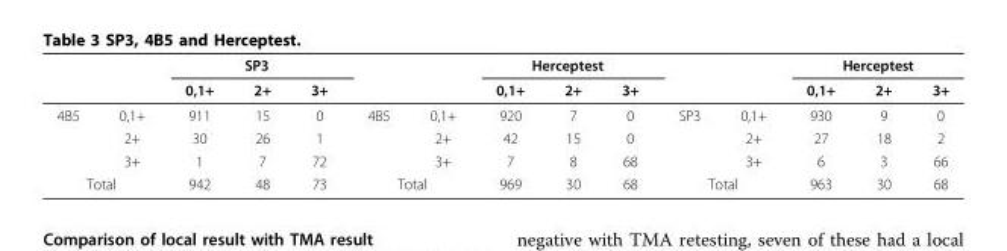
<table><thead><tr><td rowspan="2"></td><td rowspan="2"></td><td colspan="3">SP3</td><td rowspan="2"></td><td rowspan="2"></td><td colspan="3">Herceptest</td><td rowspan="2"></td><td rowspan="2"></td><td colspan="3">Herceptest</td></tr><tr><td>0,1+</td><td>2+</td><td>3+</td><td>0,1+</td><td>2+</td><td>3+</td><td>0,1+</td><td>2+</td><td>3+</td></tr></thead><tbody><tr><td rowspan="3">4B5</td><td>0,1+</td><td>911</td><td>15</td><td>0</td><td>4B5</td><td>0,1+</td><td>920</td><td>7</td><td>0</td><td>SP3</td><td>0,1+</td><td>930</td><td>9</td><td>0</td></tr><tr><td>2+</td><td>30</td><td>26</td><td>1</td><td></td><td>2+</td><td>42</td><td>15</td><td>0</td><td></td><td>2+</td><td>27</td><td>18</td><td>2</td></tr><tr><td>3+</td><td>1</td><td>7</td><td>72</td><td></td><td>3+</td><td>7</td><td>8</td><td>68</td><td></td><td>3+</td><td>6</td><td>3</td><td>66</td></tr><tr><td colspan="2">Total</td><td>942</td><td>48</td><td>73</td><td colspan="2">Total</td><td>969</td><td>30</td><td>68</td><td colspan="2">Total</td><td>963</td><td>30</td><td>68</td></tr></tbody></table>